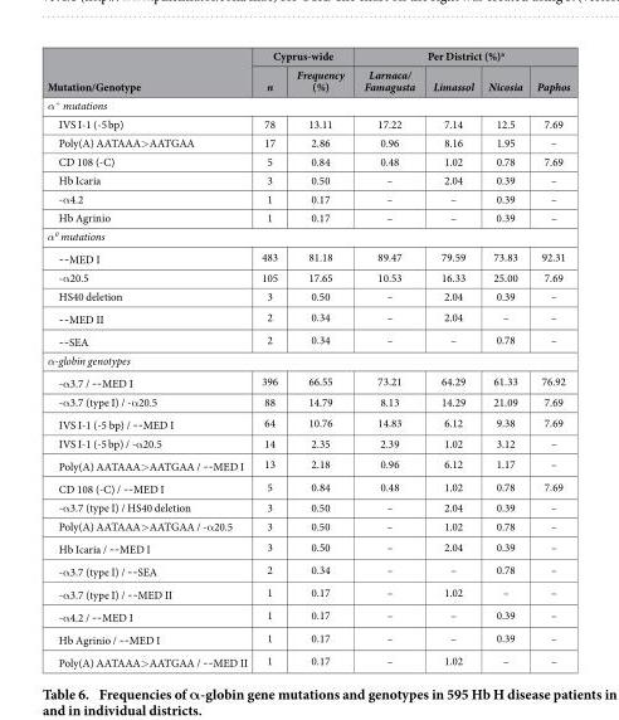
<table><thead><tr><td rowspan="2">Mutation/Genotype</td><td colspan="2">Cyprus-wide</td><td colspan="4">Per District (%)<sup>a</sup></td></tr><tr><td>n</td><td>Frequency (%)</td><td>Larnaca/ Famagusta</td><td>Limassol</td><td>Nicosia</td><td>Paphos</td></tr></thead><tbody><tr><td colspan="7">α<sup>+</sup> mutations</td></tr><tr><td>IVS I-1 (- 5 bp)</td><td>78</td><td>13.11</td><td>17.22</td><td>7.14</td><td>12.5</td><td>7.69</td></tr><tr><td>Poly(A) AATAAA&gt; AATGAA</td><td>17</td><td>2.86</td><td>0.96</td><td>8.16</td><td>1.95</td><td>–</td></tr><tr><td>CD 108 (-C)</td><td>5</td><td>0.84</td><td>0.48</td><td>1.02</td><td>0.78</td><td>7.69</td></tr><tr><td>Hb Icaria</td><td>3</td><td>0.50</td><td>–</td><td>2.04</td><td>0.39</td><td>–</td></tr><tr><td>-α 4.2</td><td>1</td><td>0.17</td><td>–</td><td>–</td><td>0.39</td><td>–</td></tr><tr><td>Hb Agrinio</td><td>1</td><td>0.17</td><td>–</td><td>–</td><td>0.39</td><td>–</td></tr><tr><td colspan="7">α<sup>0</sup> mutations</td></tr><tr><td>--MED I</td><td>483</td><td>81.18</td><td>89.47</td><td>79.59</td><td>73.83</td><td>92.31</td></tr><tr><td>-α 20.5</td><td>105</td><td>17.65</td><td>10.53</td><td>16.33</td><td>25.00</td><td>7.69</td></tr><tr><td>HS40 deletion</td><td>3</td><td>0.50</td><td>–</td><td>2.04</td><td>0.39</td><td>–</td></tr><tr><td>--MED II</td><td>2</td><td>0.34</td><td>–</td><td>2.04</td><td>–</td><td>–</td></tr><tr><td>--SEA</td><td>2</td><td>0.34</td><td>–</td><td>–</td><td>0.78</td><td>–</td></tr><tr><td colspan="7">α-globin genotypes</td></tr><tr><td>-α 3.7 / --MED I</td><td>396</td><td>66.55</td><td>73.21</td><td>64.29</td><td>61.33</td><td>76.92</td></tr><tr><td>-α 3.7 (type I) / -α 20.5</td><td>88</td><td>14.79</td><td>8.13</td><td>14.29</td><td>21.09</td><td>7.69</td></tr><tr><td>IVS I-1 (- 5 bp) / --MED I</td><td>64</td><td>10.76</td><td>14.83</td><td>6.12</td><td>9.38</td><td>7.69</td></tr><tr><td>IVS I-1 (- 5 bp) / -α 20.5</td><td>14</td><td>2.35</td><td>2.39</td><td>1.02</td><td>3.12</td><td>–</td></tr><tr><td>Poly(A) AATAAA&gt; AATGAA / --MED I</td><td>13</td><td>2.18</td><td>0.96</td><td>6.12</td><td>1.17</td><td>–</td></tr><tr><td>CD 108 (-C) / --MED I</td><td>5</td><td>0.84</td><td>0.48</td><td>1.02</td><td>0.78</td><td>7.69</td></tr><tr><td>-α 3.7 (type I) / HS40 deletion</td><td>3</td><td>0.50</td><td>–</td><td>2.04</td><td>0.39</td><td>–</td></tr><tr><td>Poly(A) AATAAA&gt; AATGAA / -α 20.5</td><td>3</td><td>0.50</td><td>–</td><td>1.02</td><td>0.78</td><td>–</td></tr><tr><td>Hb Icaria / --MED I</td><td>3</td><td>0.50</td><td>–</td><td>2.04</td><td>0.39</td><td>–</td></tr><tr><td>-α 3.7 (type I) / --SEA</td><td>2</td><td>0.34</td><td>–</td><td>–</td><td>0.78</td><td>–</td></tr><tr><td>-α 3.7 (type I) / --MED II</td><td>1</td><td>0.17</td><td>–</td><td>1.02</td><td>–</td><td>–</td></tr><tr><td>-α 4.2 / --MED I</td><td>1</td><td>0.17</td><td>–</td><td>–</td><td>0.39</td><td>–</td></tr><tr><td>Hb Agrinio / --MED I</td><td>1</td><td>0.17</td><td>–</td><td>–</td><td>0.39</td><td>–</td></tr><tr><td>Poly(A) AATAAA&gt; AATGAA / --MED II</td><td>1</td><td>0.17</td><td>–</td><td>1.02</td><td>–</td><td>–</td></tr></tbody></table>